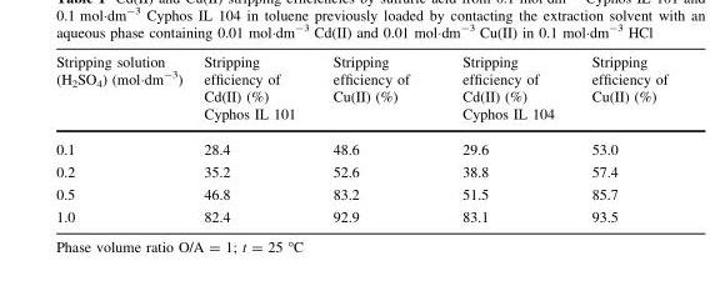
<table><thead><tr><td rowspan="2">Stripping solution (H<sub>2</sub>SO<sub>4</sub>) (mol·dm<sup>-3</sup>)</td><td>Stripping efficiency of Cd(II) (%)</td><td>Stripping efficiency of Cu(II) (%)</td><td>Stripping efficiency of Cd(II) (%)</td><td>Stripping efficiency of Cu(II) (%)</td></tr><tr><td colspan="2">Cyphos IL 101</td><td colspan="2">Cyphos IL 104</td></tr></thead><tbody><tr><td>0.1</td><td>28.4</td><td>48.6</td><td>29.6</td><td>53.0</td></tr><tr><td>0.2</td><td>35.2</td><td>52.6</td><td>38.8</td><td>57.4</td></tr><tr><td>0.5</td><td>46.8</td><td>83.2</td><td>51.5</td><td>85.7</td></tr><tr><td>1.0</td><td>82.4</td><td>92.9</td><td>83.1</td><td>93.5</td></tr></tbody></table>